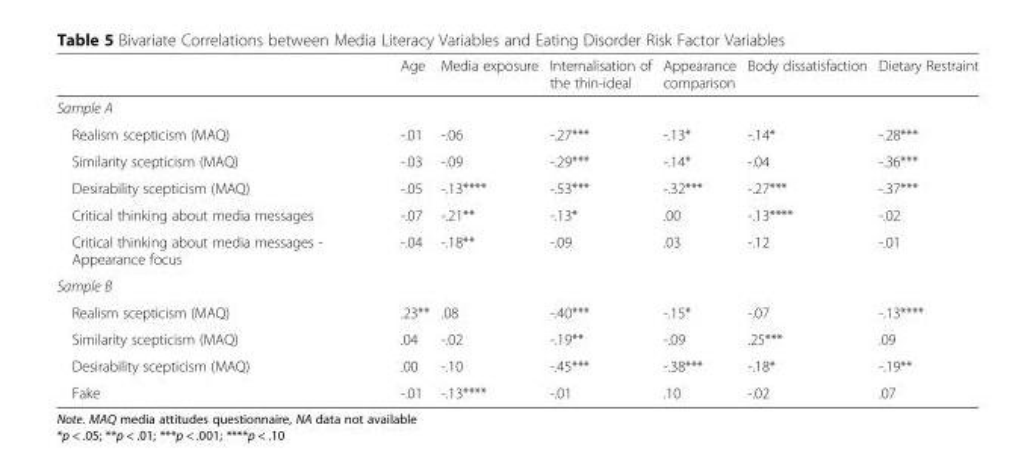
<table><thead><tr><td></td><td>Age</td><td>Media exposure</td><td>Internalisation of the thin-ideal</td><td>Appearance comparison</td><td>Body dissatisfaction</td><td>Dietary Restraint</td></tr></thead><tbody><tr><td colspan="7">Sample A</td></tr><tr><td>Realism scepticism (MAQ)</td><td>-.01</td><td>-.06</td><td>-.27***</td><td>-.13*</td><td>-.14*</td><td>-.28***</td></tr><tr><td>Similarity scepticism (MAQ)</td><td>-.03</td><td>-.09</td><td>-.29***</td><td>-.14*</td><td>-.04</td><td>-.36***</td></tr><tr><td>Desirability scepticism (MAQ)</td><td>-.05</td><td>-.13****</td><td>-.53***</td><td>-.32***</td><td>-.27***</td><td>-.37***</td></tr><tr><td>Critical thinking about media messages</td><td>-.07</td><td>-.21**</td><td>-.13*</td><td>.00</td><td>-.13****</td><td>-.02</td></tr><tr><td>Critical thinking about media messages - Appearance focus</td><td>-.04</td><td>-.18**</td><td>-.09</td><td>.03</td><td>-.12</td><td>-.01</td></tr><tr><td colspan="7">Sample B</td></tr><tr><td>Realism scepticism (MAQ)</td><td>.23**</td><td>.08</td><td>-.40***</td><td>-.15*</td><td>-.07</td><td>-.13****</td></tr><tr><td>Similarity scepticism (MAQ)</td><td>.04</td><td>-.02</td><td>-.19**</td><td>-.09</td><td>.25***</td><td>.09</td></tr><tr><td>Desirability scepticism (MAQ)</td><td>.00</td><td>-.10</td><td>-.45***</td><td>-.38***</td><td>-.18*</td><td>-.19**</td></tr><tr><td>Fake</td><td>-.01</td><td>-.13****</td><td>-.01</td><td>.10</td><td>-.02</td><td>.07</td></tr></tbody></table>